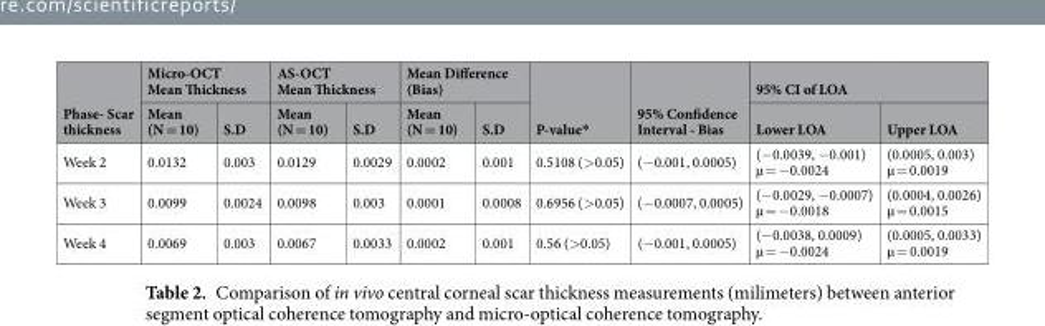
<table><thead><tr><td rowspan="2">Phase- Scar thickness</td><td colspan="2">Micro-OCT Mean Thickness</td><td colspan="2">AS-OCT Mean Thickness</td><td colspan="2">Mean Difference (Bias)</td><td rowspan="2">P-value*</td><td rowspan="2">95% Confidence Interval - Bias</td><td colspan="2">95% CI of LOA</td></tr><tr><td>Mean (N = 10)</td><td>S.D</td><td>Mean (N = 10)</td><td>S.D</td><td>Mean (N = 10)</td><td>S.D</td><td>Lower LOA</td><td>Upper LOA</td></tr></thead><tbody><tr><td>Week 2</td><td>0.0132</td><td>0.003</td><td>0.0129</td><td>0.0029</td><td>0.0002</td><td>0.001</td><td>0.5108 (&gt;0.05)</td><td>(−0.001, 0.0005)</td><td>(−0.0039, −0.001) µ = −0.0024</td><td>(0.0005, 0.003) µ = 0.0019</td></tr><tr><td>Week 3</td><td>0.0099</td><td>0.0024</td><td>0.0098</td><td>0.003</td><td>0.0001</td><td>0.0008</td><td>0.6956 (&gt;0.05)</td><td>(−0.0007, 0.0005)</td><td>(−0.0029, −0.0007) µ = −0.0018</td><td>(0.0004, 0.0026) µ = 0.0015</td></tr><tr><td>Week 4</td><td>0.0069</td><td>0.003</td><td>0.0067</td><td>0.0033</td><td>0.0002</td><td>0.001</td><td>0.56 (&gt;0.05)</td><td>(−0.001, 0.0005)</td><td>(−0.0038, 0.0009) µ = −0.0024</td><td>(0.0005, 0.0033) µ = 0.0019</td></tr></tbody></table>